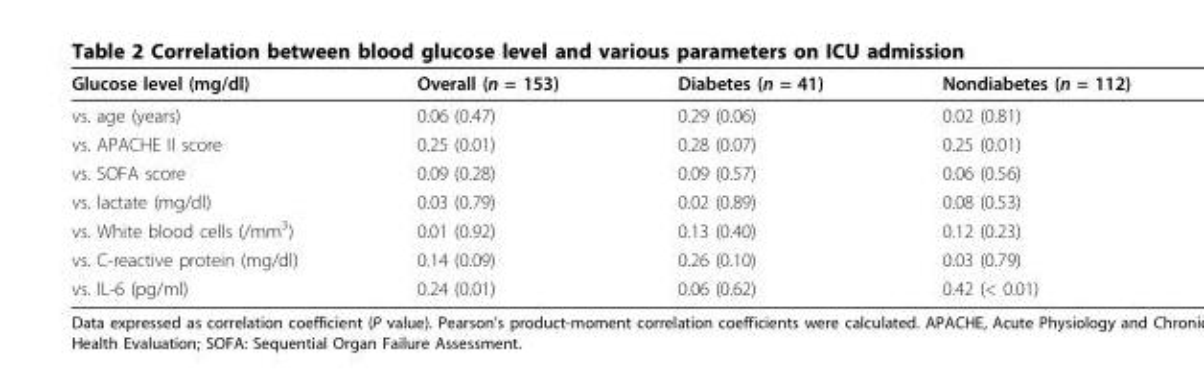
<table><thead><tr><td>Glucose level (mg/dl)</td><td>Overall (n = 153)</td><td>Diabetes (n = 41)</td><td>Nondiabetes (n = 112)</td></tr></thead><tbody><tr><td>vs. age (years)</td><td>0.06 (0.47)</td><td>0.29 (0.06)</td><td>0.02 (0.81)</td></tr><tr><td>vs. APACHE II score</td><td>0.25 (0.01)</td><td>0.28 (0.07)</td><td>0.25 (0.01)</td></tr><tr><td>vs. SOFA score</td><td>0.09 (0.28)</td><td>0.09 (0.57)</td><td>0.06 (0.56)</td></tr><tr><td>vs. lactate (mg/dl)</td><td>0.03 (0.79)</td><td>0.02 (0.89)</td><td>0.08 (0.53)</td></tr><tr><td>vs. White blood cells (/mm<sup>3</sup>)</td><td>0.01 (0.92)</td><td>0.13 (0.40)</td><td>0.12 (0.23)</td></tr><tr><td>vs. C-reactive protein (mg/dl)</td><td>0.14 (0.09)</td><td>0.26 (0.10)</td><td>0.03 (0.79)</td></tr><tr><td>vs. IL-6 (pg/ml)</td><td>0.24 (0.01)</td><td>0.06 (0.62)</td><td>0.42 (&lt; 0.01)</td></tr></tbody></table>